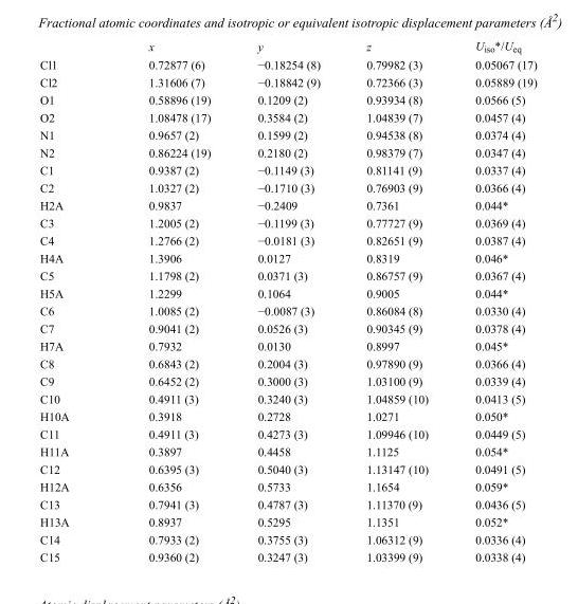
<table><thead><tr><td></td><td>x</td><td>y</td><td>z</td><td>U<sub>iso</sub>*/U<sub>eq</sub></td></tr></thead><tbody><tr><td>Cl1</td><td>0.72877 (6)</td><td>−0.18254 (8)</td><td>0.79982 (3)</td><td>0.05067 (17)</td></tr><tr><td>Cl2</td><td>1.31606 (7)</td><td>−0.18842 (9)</td><td>0.72366 (3)</td><td>0.05889 (19)</td></tr><tr><td>O1</td><td>0.58896 (19)</td><td>0.1209 (2)</td><td>0.93934 (8)</td><td>0.0566 (5)</td></tr><tr><td>O2</td><td>1.08478 (17)</td><td>0.3584 (2)</td><td>1.04839 (7)</td><td>0.0457 (4)</td></tr><tr><td>N1</td><td>0.9657 (2)</td><td>0.1599 (2)</td><td>0.94538 (8)</td><td>0.0374 (4)</td></tr><tr><td>N2</td><td>0.86224 (19)</td><td>0.2180 (2)</td><td>0.98379 (7)</td><td>0.0347 (4)</td></tr><tr><td>C1</td><td>0.9387 (2)</td><td>−0.1149 (3)</td><td>0.81141 (9)</td><td>0.0337 (4)</td></tr><tr><td>C2</td><td>1.0327 (2)</td><td>−0.1710 (3)</td><td>0.76903 (9)</td><td>0.0366 (4)</td></tr><tr><td>H2A</td><td>0.9837</td><td>−0.2409</td><td>0.7361</td><td>0.044*</td></tr><tr><td>C3</td><td>1.2005 (2)</td><td>−0.1199 (3)</td><td>0.77727 (9)</td><td>0.0369 (4)</td></tr><tr><td>C4</td><td>1.2766 (2)</td><td>−0.0181 (3)</td><td>0.82651 (9)</td><td>0.0387 (4)</td></tr><tr><td>H4A</td><td>1.3906</td><td>0.0127</td><td>0.8319</td><td>0.046*</td></tr><tr><td>C5</td><td>1.1798 (2)</td><td>0.0371 (3)</td><td>0.86757 (9)</td><td>0.0367 (4)</td></tr><tr><td>H5A</td><td>1.2299</td><td>0.1064</td><td>0.9005</td><td>0.044*</td></tr><tr><td>C6</td><td>1.0085 (2)</td><td>−0.0087 (3)</td><td>0.86084 (8)</td><td>0.0330 (4)</td></tr><tr><td>C7</td><td>0.9041 (2)</td><td>0.0526 (3)</td><td>0.90345 (9)</td><td>0.0378 (4)</td></tr><tr><td>H7A</td><td>0.7932</td><td>0.0130</td><td>0.8997</td><td>0.045*</td></tr><tr><td>C8</td><td>0.6843 (2)</td><td>0.2004 (3)</td><td>0.97890 (9)</td><td>0.0366 (4)</td></tr><tr><td>C9</td><td>0.6452 (2)</td><td>0.3000 (3)</td><td>1.03100 (9)</td><td>0.0339 (4)</td></tr><tr><td>C10</td><td>0.4911 (3)</td><td>0.3240 (3)</td><td>1.04859 (10)</td><td>0.0413 (5)</td></tr><tr><td>H10A</td><td>0.3918</td><td>0.2728</td><td>1.0271</td><td>0.050*</td></tr><tr><td>C11</td><td>0.4911 (3)</td><td>0.4273 (3)</td><td>1.09946 (10)</td><td>0.0449 (5)</td></tr><tr><td>H11A</td><td>0.3897</td><td>0.4458</td><td>1.1125</td><td>0.054*</td></tr><tr><td>C12</td><td>0.6395 (3)</td><td>0.5040 (3)</td><td>1.13147 (10)</td><td>0.0491 (5)</td></tr><tr><td>H12A</td><td>0.6356</td><td>0.5733</td><td>1.1654</td><td>0.059*</td></tr><tr><td>C13</td><td>0.7941 (3)</td><td>0.4787 (3)</td><td>1.11370 (9)</td><td>0.0436 (5)</td></tr><tr><td>H13A</td><td>0.8937</td><td>0.5295</td><td>1.1351</td><td>0.052*</td></tr><tr><td>C14</td><td>0.7933 (2)</td><td>0.3755 (3)</td><td>1.06312 (9)</td><td>0.0336 (4)</td></tr><tr><td>C15</td><td>0.9360 (2)</td><td>0.3247 (3)</td><td>1.03399 (9)</td><td>0.0338 (4)</td></tr></tbody></table>